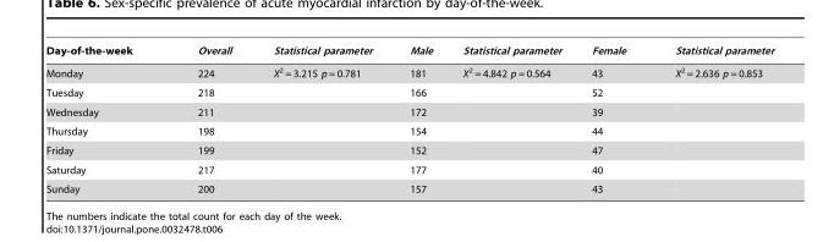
<table><thead><tr><td>Day-of-the-week</td><td>Overall</td><td>Statistical parameter</td><td>Male</td><td>Statistical parameter</td><td>Female</td><td>Statistical parameter</td></tr></thead><tbody><tr><td>Monday</td><td>224</td><td>X<sup>2</sup> = 3.215 p = 0.781</td><td>181</td><td>X<sup>2</sup> = 4.842 p = 0.564</td><td>43</td><td>X<sup>2</sup> = 2.636 p = 0.853</td></tr><tr><td>Tuesday</td><td>218</td><td></td><td>166</td><td></td><td>52</td><td></td></tr><tr><td>Wednesday</td><td>211</td><td></td><td>172</td><td></td><td>39</td><td></td></tr><tr><td>Thursday</td><td>198</td><td></td><td>154</td><td></td><td>44</td><td></td></tr><tr><td>Friday</td><td>199</td><td></td><td>152</td><td></td><td>47</td><td></td></tr><tr><td>Saturday</td><td>217</td><td></td><td>177</td><td></td><td>40</td><td></td></tr><tr><td>Sunday</td><td>200</td><td></td><td>157</td><td></td><td>43</td><td></td></tr></tbody></table>